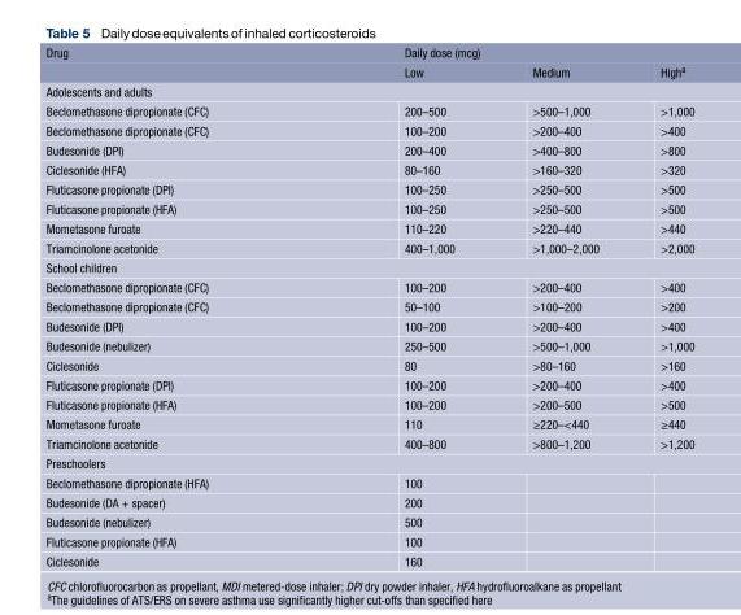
<table><thead><tr><td rowspan="2">Drug</td><td colspan="3">Daily dose (mcg)</td></tr><tr><td>Low</td><td>Medium</td><td>High<sup>a</sup></td></tr></thead><tbody><tr><td colspan="4">Adolescents and adults</td></tr><tr><td>Beclomethasone dipropionate (CFC)</td><td>200–500</td><td>&gt;500–1,000</td><td>&gt;1,000</td></tr><tr><td>Beclomethasone dipropionate (CFC)</td><td>100–200</td><td>&gt;200–400</td><td>&gt;400</td></tr><tr><td>Budesonide (DPI)</td><td>200–400</td><td>&gt;400–800</td><td>&gt;800</td></tr><tr><td>Ciclesonide (HFA)</td><td>80–160</td><td>&gt;160–320</td><td>&gt;320</td></tr><tr><td>Fluticasone propionate (DPI)</td><td>100–250</td><td>&gt;250–500</td><td>&gt;500</td></tr><tr><td>Fluticasone propionate (HFA)</td><td>100–250</td><td>&gt;250–500</td><td>&gt;500</td></tr><tr><td>Mometasone furoate</td><td>110–220</td><td>&gt;220–440</td><td>&gt;440</td></tr><tr><td>Triamcinolone acetonide</td><td>400–1,000</td><td>&gt;1,000–2,000</td><td>&gt;2,000</td></tr><tr><td colspan="4">School children</td></tr><tr><td>Beclomethasone dipropionate (CFC)</td><td>100–200</td><td>&gt;200–400</td><td>&gt;400</td></tr><tr><td>Beclomethasone dipropionate (CFC)</td><td>50–100</td><td>&gt;100–200</td><td>&gt;200</td></tr><tr><td>Budesonide (DPI)</td><td>100–200</td><td>&gt;200–400</td><td>&gt;400</td></tr><tr><td>Budesonide (nebulizer)</td><td>250–500</td><td>&gt;500–1,000</td><td>&gt;1,000</td></tr><tr><td>Ciclesonide</td><td>80</td><td>&gt;80–160</td><td>&gt;160</td></tr><tr><td>Fluticasone propionate (DPI)</td><td>100–200</td><td>&gt;200–400</td><td>&gt;400</td></tr><tr><td>Fluticasone propionate (HFA)</td><td>100–200</td><td>&gt;200–500</td><td>&gt;500</td></tr><tr><td>Mometasone furoate</td><td>110</td><td>≥220–&lt;440</td><td>≥440</td></tr><tr><td>Triamcinolone acetonide</td><td>400–800</td><td>&gt;800–1,200</td><td>&gt;1,200</td></tr><tr><td colspan="4">Preschoolers</td></tr><tr><td>Beclomethasone dipropionate (HFA)</td><td>100</td><td></td><td></td></tr><tr><td>Budesonide (DA + spacer)</td><td>200</td><td></td><td></td></tr><tr><td>Budesonide (nebulizer)</td><td>500</td><td></td><td></td></tr><tr><td>Fluticasone propionate (HFA)</td><td>100</td><td></td><td></td></tr><tr><td>Ciclesonide</td><td>160</td><td></td><td></td></tr></tbody></table>